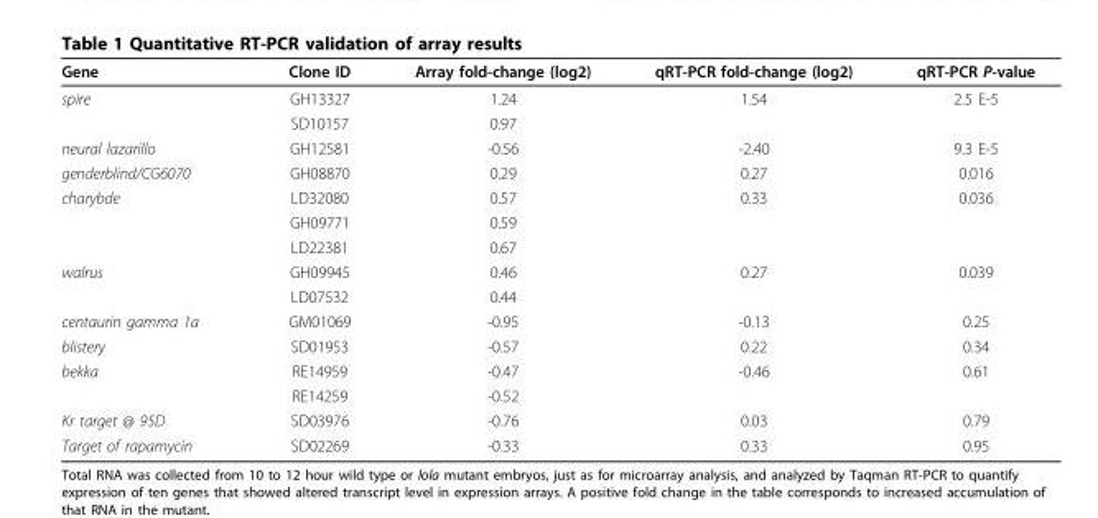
<table><thead><tr><td>Gene</td><td>Clone ID</td><td>Array fold-change (log2)</td><td>qRT-PCR fold-change (log2)</td><td>qRT-PCR P-value</td></tr></thead><tbody><tr><td rowspan="2">spire</td><td>GH13327</td><td>1.24</td><td>1.54</td><td>2.5 E-5</td></tr><tr><td>SD10157</td><td>0.97</td><td></td><td></td></tr><tr><td>neural lazarillo</td><td>GH12581</td><td>-0.56</td><td>-2.40</td><td>9.3 E-5</td></tr><tr><td>genderblind/CG6070</td><td>GH08870</td><td>0.29</td><td>0.27</td><td>0.016</td></tr><tr><td rowspan="3">charybde</td><td>LD32080</td><td>0.57</td><td>0.33</td><td>0.036</td></tr><tr><td>GH09771</td><td>0.59</td><td></td><td></td></tr><tr><td>LD22381</td><td>0.67</td><td></td><td></td></tr><tr><td rowspan="2">walrus</td><td>GH09945</td><td>0.46</td><td>0.27</td><td>0.039</td></tr><tr><td>LD07532</td><td>0.44</td><td></td><td></td></tr><tr><td>centaurin gamma 1a</td><td>GM01069</td><td>-0.95</td><td>-0.13</td><td>0.25</td></tr><tr><td>blistery</td><td>SD01953</td><td>-0.57</td><td>0.22</td><td>0.34</td></tr><tr><td rowspan="2">bekka</td><td>RE14959</td><td>-0.47</td><td>-0.46</td><td>0.61</td></tr><tr><td>RE14259</td><td>-0.52</td><td></td><td></td></tr><tr><td>Kr target @ 95D</td><td>SD03976</td><td>-0.76</td><td>0.03</td><td>0.79</td></tr><tr><td>Target of rapamycin</td><td>SD02269</td><td>-0.33</td><td>0.33</td><td>0.95</td></tr></tbody></table>